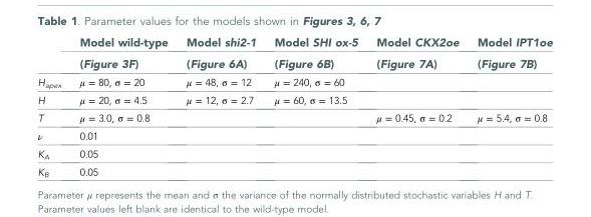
<table><thead><tr><td rowspan="2"></td><td rowspan="2">Model wild-type (Figure 3F)</td><td rowspan="2">Model shi2-1 (Figure 6A)</td><td rowspan="2">Model SHI ox-5 (Figure 6B)</td><td rowspan="2">Model CKX2oe (Figure 7A)</td><td rowspan="2">Model IPT1oe (Figure 7B)</td></tr><tr></tr></thead><tbody><tr><td>H<sub>apex</sub></td><td>μ = 80, σ = 20</td><td>μ = 48, σ = 12</td><td>μ = 240, σ = 60</td><td></td><td></td></tr><tr><td>H</td><td>μ = 20, σ = 4.5</td><td>μ = 12, σ = 2.7</td><td>μ = 60, σ = 13.5</td><td></td><td></td></tr><tr><td>T</td><td>μ = 3.0, σ = 0.8</td><td></td><td></td><td>μ = 0.45, σ = 0.2</td><td>μ = 5.4, σ = 0.8</td></tr><tr><td>ν</td><td>0.01</td><td></td><td></td><td></td><td></td></tr><tr><td>K<sub>A</sub></td><td>0.05</td><td></td><td></td><td></td><td></td></tr><tr><td>K<sub>B</sub></td><td>0.05</td><td></td><td></td><td></td><td></td></tr></tbody></table>